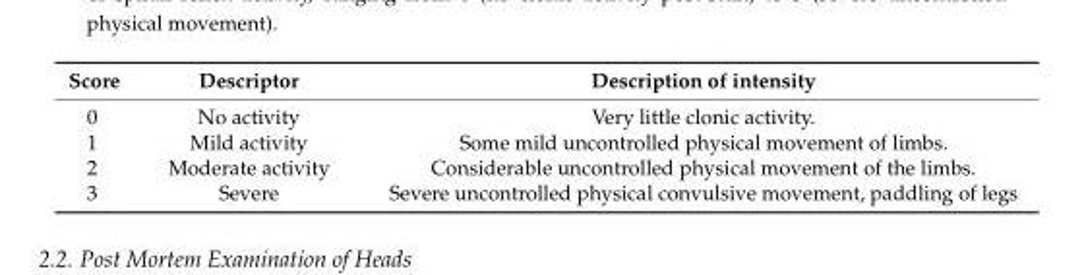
<table><thead><tr><td>Score</td><td>Descriptor</td><td>Description of intensity</td></tr></thead><tbody><tr><td>0</td><td>No activity</td><td>Very little clonic activity.</td></tr><tr><td>1</td><td>Mild activity</td><td>Some mild uncontrolled physical movement of limbs.</td></tr><tr><td>2</td><td>Moderate activity</td><td>Considerable uncontrolled physical movement of the limbs.</td></tr><tr><td>3</td><td>Severe</td><td>Severe uncontrolled physical convulsive movement, paddling of legs</td></tr></tbody></table>